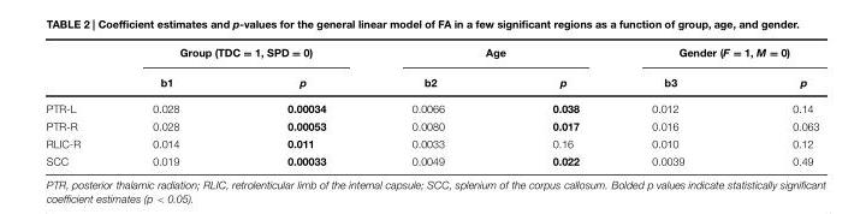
<table><thead><tr><td rowspan="2"></td><td colspan="2">Group (TDC = 1, SPD = 0)</td><td colspan="2">Age</td><td colspan="2">Gender (F = 1, M = 0)</td></tr><tr><td>b1</td><td>p</td><td>b2</td><td>p</td><td>b3</td><td>p</td></tr></thead><tbody><tr><td>PTR-L</td><td>0.028</td><td>0.00034</td><td>0.0066</td><td>0.038</td><td>0.012</td><td>0.14</td></tr><tr><td>PTR-R</td><td>0.028</td><td>0.00053</td><td>0.0080</td><td>0.017</td><td>0.016</td><td>0.063</td></tr><tr><td>RLIC-R</td><td>0.014</td><td>0.011</td><td>0.0033</td><td>0.16</td><td>0.010</td><td>0.12</td></tr><tr><td>SCC</td><td>0.019</td><td>0.00033</td><td>0.0049</td><td>0.022</td><td>0.0039</td><td>0.49</td></tr></tbody></table>